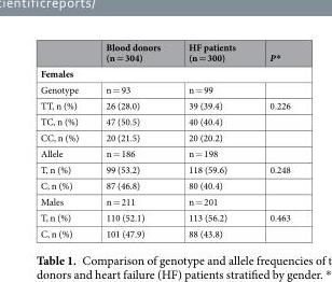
<table><thead><tr><td></td><td>Blood donors (n = 304)</td><td>HF patients (n = 300)</td><td>P*</td></tr></thead><tbody><tr><td colspan="4">Females</td></tr><tr><td>Genotype</td><td>n = 93</td><td>n = 99</td><td></td></tr><tr><td>TT, n (%)</td><td>26 (28.0)</td><td>39 (39.4)</td><td>0.226</td></tr><tr><td>TC, n (%)</td><td>47 (50.5)</td><td>40 (40.4)</td><td></td></tr><tr><td>CC, n (%)</td><td>20 (21.5)</td><td>20 (20.2)</td><td></td></tr><tr><td>Allele</td><td>n = 186</td><td>n = 198</td><td></td></tr><tr><td>T, n (%)</td><td>99 (53.2)</td><td>118 (59.6)</td><td>0.248</td></tr><tr><td>C, n (%)</td><td>87 (46.8)</td><td>80 (40.4)</td><td></td></tr><tr><td>Males</td><td>n = 211</td><td>n = 201</td><td></td></tr><tr><td>T, n (%)</td><td>110 (52.1)</td><td>113 (56.2)</td><td>0.463</td></tr><tr><td>C, n (%)</td><td>101 (47.9)</td><td>88 (43.8)</td><td></td></tr></tbody></table>